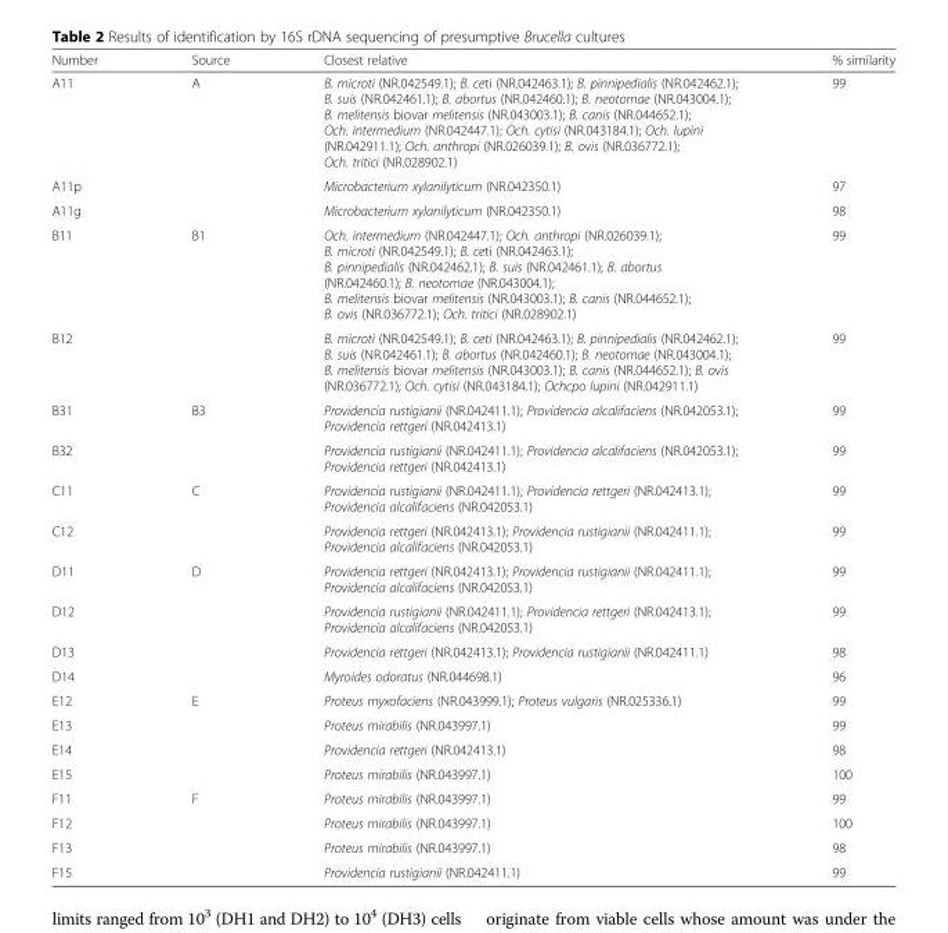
<table><thead><tr><td>Number</td><td>Source</td><td>Closest relative</td><td>% similarity</td></tr></thead><tbody><tr><td>A11</td><td rowspan="3">A</td><td>B. microti (NR.042549.1); B. ceti (NR.042463.1); B. pinnipedialis (NR.042462.1); B. suis (NR.042461.1); B. abortus (NR.042460.1); B. neotomae (NR.043004.1); B. melitensis biovar melitensis (NR.043003.1); B. canis (NR.044652.1); Och. intermedium (NR.042447.1); Och. cytisi (NR.043184.1); Och. lupini (NR.042911.1); Och. anthropi (NR.026039.1); B. ovis (NR.036772.1); Och. tritici (NR.028902.1)</td><td>99</td></tr><tr><td>A11p</td><td>Microbacterium xylanilyticum (NR.042350.1)</td><td>97</td></tr><tr><td>A11g</td><td>Microbacterium xylanilyticum (NR.042350.1)</td><td>98</td></tr><tr><td>B11</td><td rowspan="2">B1</td><td>Och. intermedium (NR.042447.1); Och. anthropi (NR.026039.1); B. microti (NR.042549.1); B. ceti (NR.042463.1); B. pinnipedialis (NR.042462.1); B. suis (NR.042461.1); B. abortus (NR.042460.1); B. neotomae (NR.043004.1); B. melitensis biovar melitensis (NR.043003.1); B. canis (NR.044652.1); B. ovis (NR.036772.1); Och. tritici (NR.028902.1)</td><td>99</td></tr><tr><td>B12</td><td>B. microti (NR.042549.1); B. ceti (NR.042463.1); B. pinnipedialis (NR.042462.1); B. suis (NR.042461.1); B. abortus (NR.042460.1); B. neotomae (NR.043004.1); B. melitensis biovar melitensis (NR.043003.1); B. canis (NR.044652.1); B. ovis (NR.036772.1); Och. cytisi (NR.043184.1); Ochcpo lupini (NR.042911.1)</td><td>99</td></tr><tr><td>B31</td><td rowspan="2">B3</td><td>Providencia rustigianii (NR.042411.1); Providencia alcalifaciens (NR.042053.1); Providencia rettgeri (NR.042413.1)</td><td>99</td></tr><tr><td>B32</td><td>Providencia rustigianii (NR.042411.1); Providencia alcalifaciens (NR.042053.1); Providencia rettgeri (NR.042413.1)</td><td>99</td></tr><tr><td>C11</td><td rowspan="2">C</td><td>Providencia rustigianii (NR.042411.1); Providencia rettgeri (NR.042413.1); Providencia alcalifaciens (NR.042053.1)</td><td>99</td></tr><tr><td>C12</td><td>Providencia rettgeri (NR.042413.1); Providencia rustigianii (NR.042411.1); Providencia alcalifaciens (NR.042053.1)</td><td>99</td></tr><tr><td>D11</td><td>D</td><td>Providencia rettgeri (NR.042413.1); Providencia rustigianii (NR.042411.1); Providencia alcalifaciens (NR.042053.1)</td><td>99</td></tr><tr><td>D12</td><td rowspan="3"></td><td>Providencia rustigianii (NR.042411.1); Providencia rettgeri (NR.042413.1); Providencia alcalifaciens (NR.042053.1)</td><td>99</td></tr><tr><td>D13</td><td>Providencia rettgeri (NR.042413.1); Providencia rustigianii (NR.042411.1)</td><td>98</td></tr><tr><td>D14</td><td>Myroides odoratus (NR.044698.1)</td><td>96</td></tr><tr><td>E12</td><td rowspan="4">E</td><td>Proteus myxofaciens (NR.043999.1); Proteus vulgaris (NR.025336.1)</td><td>99</td></tr><tr><td>E13</td><td>Proteus mirabilis (NR.043997.1)</td><td>99</td></tr><tr><td>E14</td><td>Providencia rettgeri (NR.042413.1)</td><td>98</td></tr><tr><td>E15</td><td>Proteus mirabilis (NR.043997.1)</td><td>100</td></tr><tr><td>F11</td><td rowspan="4">F</td><td>Proteus mirabilis (NR.043997.1)</td><td>99</td></tr><tr><td>F12</td><td>Proteus mirabilis (NR.043997.1)</td><td>100</td></tr><tr><td>F13</td><td>Proteus mirabilis (NR.043997.1)</td><td>98</td></tr><tr><td>F15</td><td>Providencia rustigianii (NR.042411.1)</td><td>99</td></tr></tbody></table>